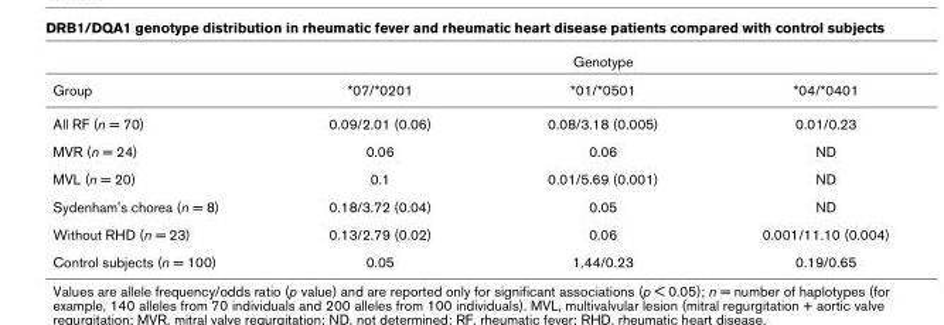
<table><thead><tr><td rowspan="2">Group</td><td colspan="3">Genotype</td></tr><tr><td>*07/*0201</td><td>*01/*0501</td><td>*04/*0401</td></tr></thead><tbody><tr><td>All RF (n = 70)</td><td>0.09/2.01 (0.06)</td><td>0.08/3.18 (0.005)</td><td>0.01/0.23</td></tr><tr><td>MVR (n = 24)</td><td>0.06</td><td>0.06</td><td>ND</td></tr><tr><td>MVL (n = 20)</td><td>0.1</td><td>0.01/5.69 (0.001)</td><td>ND</td></tr><tr><td>Sydenham&#x27;s chorea (n = 8)</td><td>0.18/3.72 (0.04)</td><td>0.05</td><td>ND</td></tr><tr><td>Without RHD (n = 23)</td><td>0.13/2.79 (0.02)</td><td>0.06</td><td>0.001/11.10 (0.004)</td></tr><tr><td>Control subjects (n = 100)</td><td>0.05</td><td>1.44/0.23</td><td>0.19/0.65</td></tr></tbody></table>